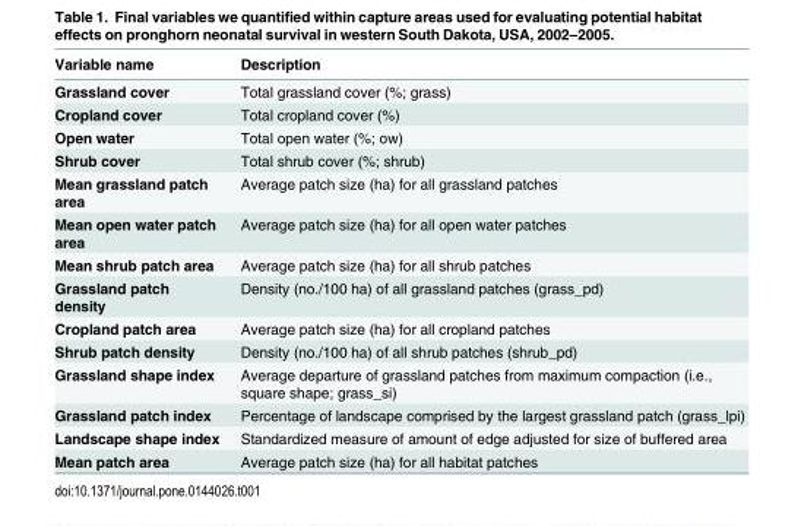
<table><thead><tr><td>Variable name</td><td>Description</td></tr></thead><tbody><tr><td>Grassland cover</td><td>Total grassland cover (%; grass)</td></tr><tr><td>Cropland cover</td><td>Total cropland cover (%)</td></tr><tr><td>Open water</td><td>Total open water (%; ow)</td></tr><tr><td>Shrub cover</td><td>Total shrub cover (%; shrub)</td></tr><tr><td>Mean grassland patch area</td><td>Average patch size (ha) for all grassland patches</td></tr><tr><td>Mean open water patch area</td><td>Average patch size (ha) for all open water patches</td></tr><tr><td>Mean shrub patch area</td><td>Average patch size (ha) for all shrub patches</td></tr><tr><td>Grassland patch density</td><td>Density (no./100 ha) of all grassland patches (grass_pd)</td></tr><tr><td>Cropland patch area</td><td>Average patch size (ha) for all cropland patches</td></tr><tr><td>Shrub patch density</td><td>Density (no./100 ha) of all shrub patches (shrub_pd)</td></tr><tr><td>Grassland shape index</td><td>Average departure of grassland patches from maximum compaction (i.e., square shape; grass_si)</td></tr><tr><td>Grassland patch index</td><td>Percentage of landscape comprised by the largest grassland patch (grass_lpi)</td></tr><tr><td>Landscape shape index</td><td>Standardized measure of amount of edge adjusted for size of buffered area</td></tr><tr><td>Mean patch area</td><td>Average patch size (ha) for all habitat patches</td></tr></tbody></table>